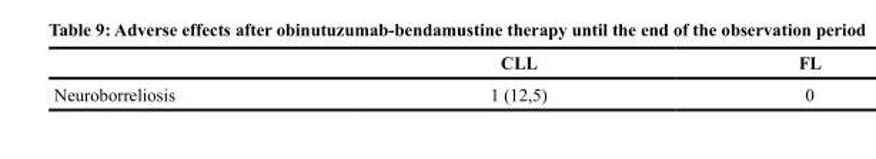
<table><thead><tr><td></td><td>CLL</td><td>FL</td></tr></thead><tbody><tr><td>Neuroborreliosis</td><td>1 (12,5)</td><td>0</td></tr></tbody></table>